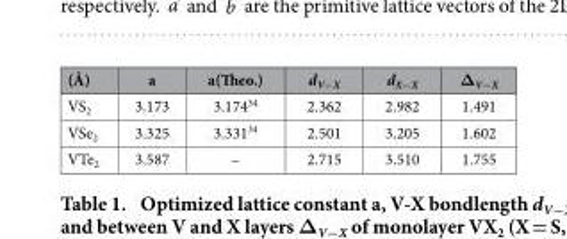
<table><thead><tr><td>(Å)</td><td>a</td><td>a(Theo.)</td><td>d<sub>V−X</sub></td><td>d<sub>X−X</sub></td><td>Δ<sub>V−X</sub></td></tr></thead><tbody><tr><td>VS<sub>2</sub></td><td>3.173</td><td>3.174<sup>34</sup></td><td>2.362</td><td>2.982</td><td>1.491</td></tr><tr><td>VSe<sub>2</sub></td><td>3.325</td><td>3.331<sup>34</sup></td><td>2.501</td><td>3.205</td><td>1.602</td></tr><tr><td>VTe<sub>2</sub></td><td>3.587</td><td>–</td><td>2.715</td><td>3.510</td><td>1.755</td></tr></tbody></table>